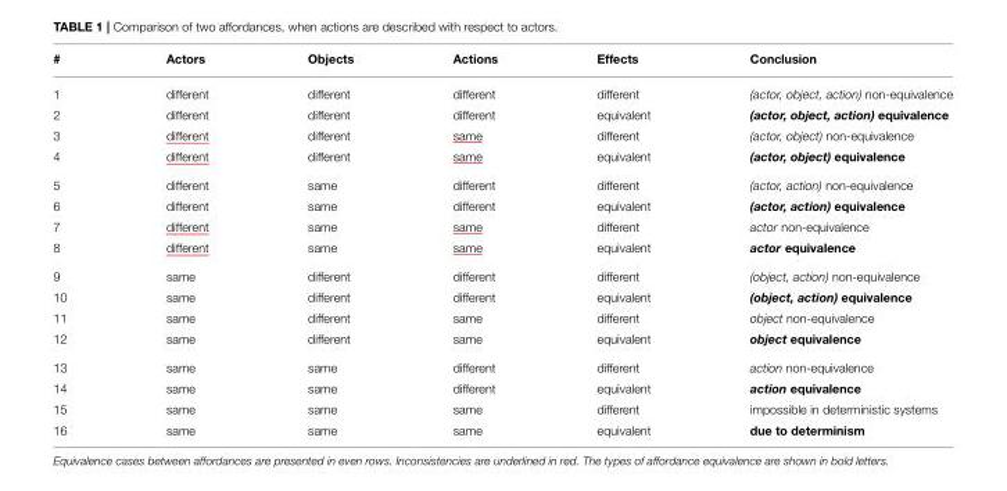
<table><thead><tr><td>#</td><td>Actors</td><td>Objects</td><td>Actions</td><td>Effects</td><td>Conclusion</td></tr></thead><tbody><tr><td>1</td><td>different</td><td>different</td><td>different</td><td>different</td><td>(actor, object, action) non-equivalence</td></tr><tr><td>2</td><td>different</td><td>different</td><td>different</td><td>equivalent</td><td>(actor, object, action) equivalence</td></tr><tr><td>3</td><td>different</td><td>different</td><td>same</td><td>different</td><td>(actor, object) non-equivalence</td></tr><tr><td>4</td><td>different</td><td>different</td><td>same</td><td>equivalent</td><td>(actor, object) equivalence</td></tr><tr><td>5</td><td>different</td><td>same</td><td>different</td><td>different</td><td>(actor, action) non-equivalence</td></tr><tr><td>6</td><td>different</td><td>same</td><td>different</td><td>equivalent</td><td>(actor, action) equivalence</td></tr><tr><td>7</td><td>different</td><td>same</td><td>same</td><td>different</td><td>actor non-equivalence</td></tr><tr><td>8</td><td>different</td><td>same</td><td>same</td><td>equivalent</td><td>actor equivalence</td></tr><tr><td>9</td><td>same</td><td>different</td><td>different</td><td>different</td><td>(object, action) non-equivalence</td></tr><tr><td>10</td><td>same</td><td>different</td><td>different</td><td>equivalent</td><td>(object, action) equivalence</td></tr><tr><td>11</td><td>same</td><td>different</td><td>same</td><td>different</td><td>object non-equivalence</td></tr><tr><td>12</td><td>same</td><td>different</td><td>same</td><td>equivalent</td><td>object equivalence</td></tr><tr><td>13</td><td>same</td><td>same</td><td>different</td><td>different</td><td>action non-equivalence</td></tr><tr><td>14</td><td>same</td><td>same</td><td>different</td><td>equivalent</td><td>action equivalence</td></tr><tr><td>15</td><td>same</td><td>same</td><td>same</td><td>different</td><td>impossible in deterministic systems</td></tr><tr><td>16</td><td>same</td><td>same</td><td>same</td><td>equivalent</td><td>due to determinism</td></tr></tbody></table>